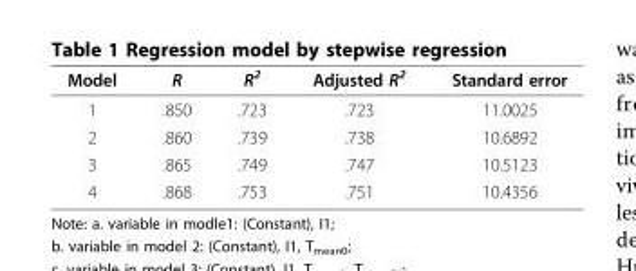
<table><thead><tr><td>Model</td><td>R</td><td>R<sup>2</sup></td><td>Adjusted R<sup>2</sup></td><td>Standard error</td></tr></thead><tbody><tr><td>1</td><td>.850</td><td>.723</td><td>.723</td><td>11.0025</td></tr><tr><td>2</td><td>.860</td><td>.739</td><td>.738</td><td>10.6892</td></tr><tr><td>3</td><td>.865</td><td>.749</td><td>.747</td><td>10.5123</td></tr><tr><td>4</td><td>.868</td><td>.753</td><td>.751</td><td>10.4356</td></tr></tbody></table>